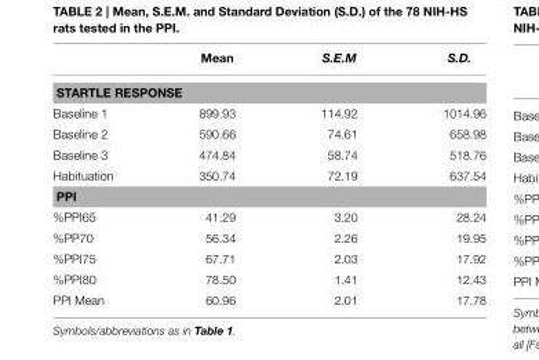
<table><thead><tr><td></td><td>Mean</td><td>S.E.M</td><td>S.D.</td></tr></thead><tbody><tr><td colspan="4">STARTLE RESPONSE</td></tr><tr><td>Baseline 1</td><td>899.93</td><td>114.92</td><td>1014.96</td></tr><tr><td>Baseline 2</td><td>590.66</td><td>74.61</td><td>658.98</td></tr><tr><td>Baseline 3</td><td>474.84</td><td>58.74</td><td>518.76</td></tr><tr><td>Habituation</td><td>350.74</td><td>72.19</td><td>637.54</td></tr><tr><td colspan="4">PPI</td></tr><tr><td>%PPI65</td><td>41.29</td><td>3.20</td><td>28.24</td></tr><tr><td>%PP70</td><td>56.34</td><td>2.26</td><td>19.95</td></tr><tr><td>%PPI75</td><td>67.71</td><td>2.03</td><td>17.92</td></tr><tr><td>%PPI80</td><td>78.50</td><td>1.41</td><td>12.43</td></tr><tr><td>PPI Mean</td><td>60.96</td><td>2.01</td><td>17.78</td></tr></tbody></table>